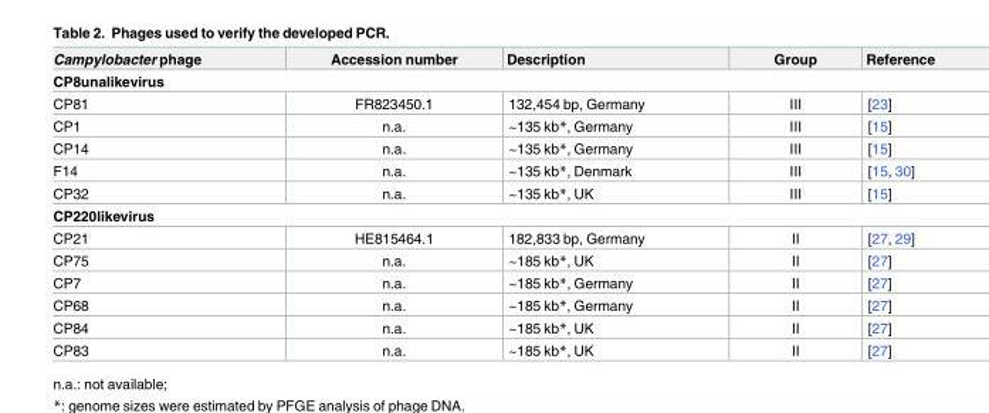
<table><thead><tr><td>Campylobacter phage</td><td>Accession number</td><td>Description</td><td>Group</td><td>Reference</td></tr></thead><tbody><tr><td colspan="5">CP8unalikevirus</td></tr><tr><td>CP81</td><td>FR823450.1</td><td>132,454 bp, Germany</td><td>III</td><td>[23]</td></tr><tr><td>CP1</td><td>n.a.</td><td>~135 kb*, Germany</td><td>III</td><td>[15]</td></tr><tr><td>CP14</td><td>n.a.</td><td>~135 kb*, Germany</td><td>III</td><td>[15]</td></tr><tr><td>F14</td><td>n.a.</td><td>~135 kb*, Denmark</td><td>III</td><td>[15, 30]</td></tr><tr><td>CP32</td><td>n.a.</td><td>~135 kb*, UK</td><td>III</td><td>[15]</td></tr><tr><td colspan="5">CP220likevirus</td></tr><tr><td>CP21</td><td>HE815464.1</td><td>182,833 bp, Germany</td><td>II</td><td>[27, 29]</td></tr><tr><td>CP75</td><td>n.a.</td><td>~185 kb*, UK</td><td>II</td><td>[27]</td></tr><tr><td>CP7</td><td>n.a.</td><td>~185 kb*, Germany</td><td>II</td><td>[27]</td></tr><tr><td>CP68</td><td>n.a.</td><td>~185 kb*, Germany</td><td>II</td><td>[27]</td></tr><tr><td>CP84</td><td>n.a.</td><td>~185 kb*, UK</td><td>II</td><td>[27]</td></tr><tr><td>CP83</td><td>n.a.</td><td>~185 kb*, UK</td><td>II</td><td>[27]</td></tr></tbody></table>